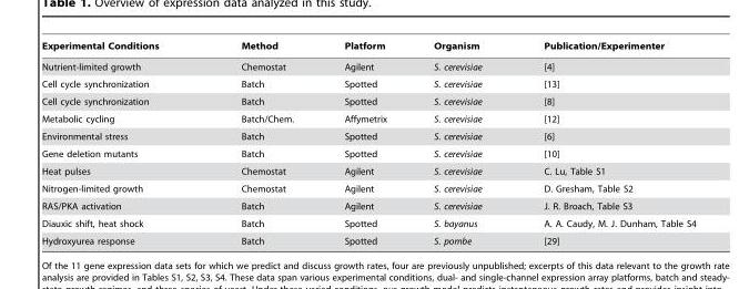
<table><thead><tr><td>Experimental Conditions</td><td>Method</td><td>Platform</td><td>Organism</td><td>Publication/Experimenter</td></tr></thead><tbody><tr><td>Nutrient-limited growth</td><td>Chemostat</td><td>Agilent</td><td>S. cerevisiae</td><td>[4]</td></tr><tr><td>Cell cycle synchronization</td><td>Batch</td><td>Spotted</td><td>S. cerevisiae</td><td>[13]</td></tr><tr><td>Cell cycle synchronization</td><td>Batch</td><td>Spotted</td><td>S. cerevisiae</td><td>[8]</td></tr><tr><td>Metabolic cycling</td><td>Batch/Chem.</td><td>Affymetrix</td><td>S. cerevisiae</td><td>[12]</td></tr><tr><td>Environmental stress</td><td>Batch</td><td>Spotted</td><td>S. cerevisiae</td><td>[6]</td></tr><tr><td>Gene deletion mutants</td><td>Batch</td><td>Spotted</td><td>S. cerevisiae</td><td>[10]</td></tr><tr><td>Heat pulses</td><td>Chemostat</td><td>Agilent</td><td>S. cerevisiae</td><td>C. Lu, Table S1</td></tr><tr><td>Nitrogen-limited growth</td><td>Chemostat</td><td>Agilent</td><td>S. cerevisiae</td><td>D. Gresham, Table S2</td></tr><tr><td>RAS/PKA activation</td><td>Batch</td><td>Agilent</td><td>S. cerevisiae</td><td>J. R. Broach, Table S3</td></tr><tr><td>Diauxic shift, heat shock</td><td>Batch</td><td>Spotted</td><td>S. bayanus</td><td>A. A. Caudy, M. J. Dunham, Table S4</td></tr><tr><td>Hydroxyurea response</td><td>Batch</td><td>Spotted</td><td>S. pombe</td><td>[29]</td></tr></tbody></table>